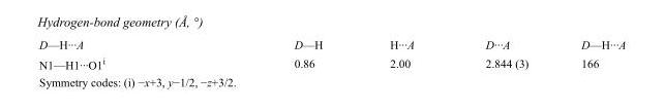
<table><tbody><tr><td>D—H···A</td><td>D—H</td><td>H···A</td><td>D···A</td><td>D—H···A</td></tr><tr><td>N1—H1···O1<sup>i</sup></td><td>0.86</td><td>2.00</td><td>2.844 (3)</td><td>166</td></tr></tbody></table>